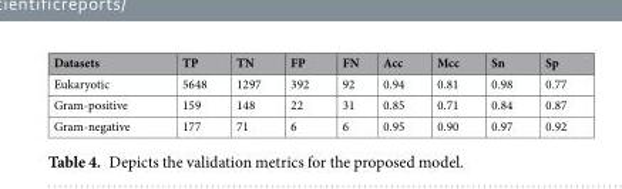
<table><thead><tr><td>Datasets</td><td>TP</td><td>TN</td><td>FP</td><td>FN</td><td>Acc</td><td>Mcc</td><td>Sn</td><td>Sp</td></tr></thead><tbody><tr><td>Eukaryotic</td><td>5648</td><td>1297</td><td>392</td><td>92</td><td>0.94</td><td>0.81</td><td>0.98</td><td>0.77</td></tr><tr><td>Gram-positive</td><td>159</td><td>148</td><td>22</td><td>31</td><td>0.85</td><td>0.71</td><td>0.84</td><td>0.87</td></tr><tr><td>Gram-negative</td><td>177</td><td>71</td><td>6</td><td>6</td><td>0.95</td><td>0.90</td><td>0.97</td><td>0.92</td></tr></tbody></table>